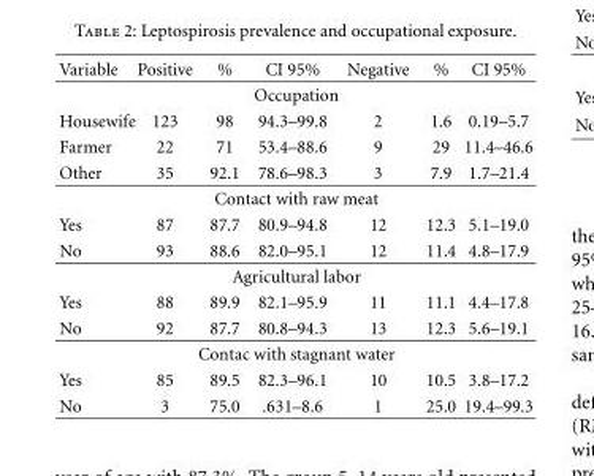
<table><thead><tr><td>Variable</td><td>Positive</td><td>%</td><td>CI 95%</td><td>Negative</td><td>%</td><td>CI 95%</td></tr></thead><tbody><tr><td colspan="7">Occupation</td></tr><tr><td>Housewife</td><td>123</td><td>98</td><td>94.3–99.8</td><td>2</td><td>1.6</td><td>0.19–5.7</td></tr><tr><td>Farmer</td><td>22</td><td>71</td><td>53.4–88.6</td><td>9</td><td>29</td><td>11.4–46.6</td></tr><tr><td>Other</td><td>35</td><td>92.1</td><td>78.6–98.3</td><td>3</td><td>7.9</td><td>1.7–21.4</td></tr><tr><td colspan="7">Contact with raw meat</td></tr><tr><td>Yes</td><td>87</td><td>87.7</td><td>80.9–94.8</td><td>12</td><td>12.3</td><td>5.1–19.0</td></tr><tr><td>No</td><td>93</td><td>88.6</td><td>82.0–95.1</td><td>12</td><td>11.4</td><td>4.8–17.9</td></tr><tr><td colspan="7">Agricultural labor</td></tr><tr><td>Yes</td><td>88</td><td>89.9</td><td>82.1–95.9</td><td>11</td><td>11.1</td><td>4.4–17.8</td></tr><tr><td>No</td><td>92</td><td>87.7</td><td>80.8–94.3</td><td>13</td><td>12.3</td><td>5.6–19.1</td></tr><tr><td colspan="7">Contac with stagnant water</td></tr><tr><td>Yes</td><td>85</td><td>89.5</td><td>82.3–96.1</td><td>10</td><td>10.5</td><td>3.8–17.2</td></tr><tr><td>No</td><td>3</td><td>75.0</td><td>.631–8.6</td><td>1</td><td>25.0</td><td>19.4–99.3</td></tr></tbody></table>